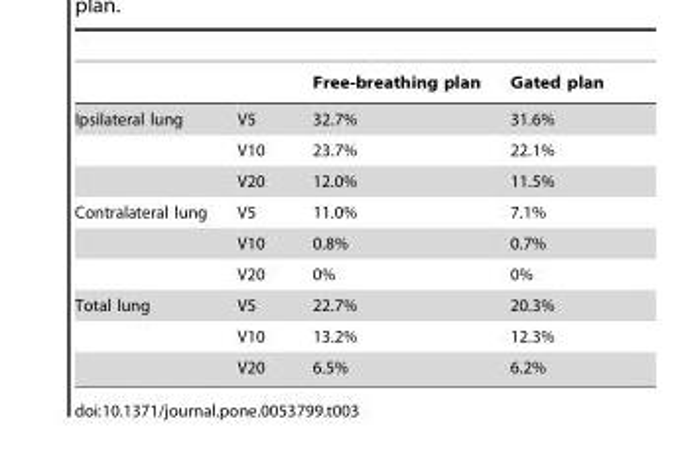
<table><thead><tr><td></td><td></td><td>Free-breathing plan</td><td>Gated plan</td></tr></thead><tbody><tr><td rowspan="3">Ipsilateral lung</td><td>V5</td><td>32.7%</td><td>31.6%</td></tr><tr><td>V10</td><td>23.7%</td><td>22.1%</td></tr><tr><td>V20</td><td>12.0%</td><td>11.5%</td></tr><tr><td rowspan="3">Contralateral lung</td><td>V5</td><td>11.0%</td><td>7.1%</td></tr><tr><td>V10</td><td>0.8%</td><td>0.7%</td></tr><tr><td>V20</td><td>0%</td><td>0%</td></tr><tr><td rowspan="3">Total lung</td><td>V5</td><td>22.7%</td><td>20.3%</td></tr><tr><td>V10</td><td>13.2%</td><td>12.3%</td></tr><tr><td>V20</td><td>6.5%</td><td>6.2%</td></tr></tbody></table>